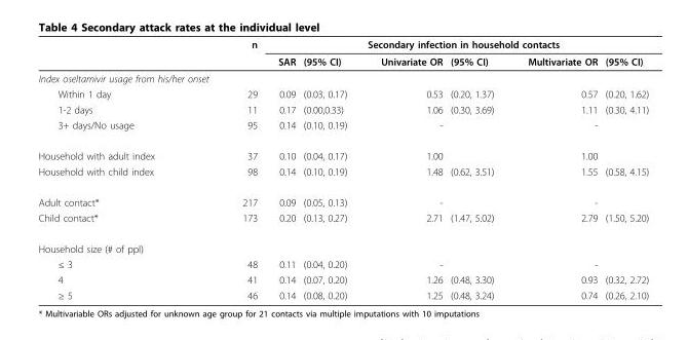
<table><thead><tr><td rowspan="2"></td><td rowspan="2">n</td><td colspan="6">Secondary infection in household contacts</td></tr><tr><td>SAR</td><td>(95% CI)</td><td>Univariate OR</td><td>(95% CI)</td><td>Multivariate OR</td><td>(95% CI)</td></tr></thead><tbody><tr><td colspan="8">Index oseltamivir usage from his/her onset</td></tr><tr><td>Within 1 day</td><td>29</td><td>0.09</td><td>(0.03, 0.17)</td><td>0.53</td><td>(0.20, 1.37)</td><td>0.57</td><td>(0.20, 1.62)</td></tr><tr><td>1-2 days</td><td>11</td><td>0.17</td><td>(0.00,0.33)</td><td>1.06</td><td>(0.30, 3.69)</td><td>1.11</td><td>(0.30, 4.11)</td></tr><tr><td>3+ days/No usage</td><td>95</td><td>0.14</td><td>(0.10, 0.19)</td><td>-</td><td></td><td>-</td><td></td></tr><tr><td>Household with adult index</td><td>37</td><td>0.10</td><td>(0.04, 0.17)</td><td>1.00</td><td></td><td>1.00</td><td></td></tr><tr><td>Household with child index</td><td>98</td><td>0.14</td><td>(0.10, 0.19)</td><td>1.48</td><td>(0.62, 3.51)</td><td>1.55</td><td>(0.58, 4.15)</td></tr><tr><td>Adult contact*</td><td>217</td><td>0.09</td><td>(0.05, 0.13)</td><td>-</td><td></td><td>-</td><td></td></tr><tr><td>Child contact*</td><td>173</td><td>0.20</td><td>(0.13, 0.27)</td><td>2.71</td><td>(1.47, 5.02)</td><td>2.79</td><td>(1.50, 5.20)</td></tr><tr><td colspan="8">Household size (# of ppl)</td></tr><tr><td>≤ 3</td><td>48</td><td>0.11</td><td>(0.04, 0.20)</td><td>-</td><td></td><td>-</td><td></td></tr><tr><td>4</td><td>41</td><td>0.14</td><td>(0.07, 0.20)</td><td>1.26</td><td>(0.48, 3.30)</td><td>0.93</td><td>(0.32, 2.72)</td></tr><tr><td>≥ 5</td><td>46</td><td>0.14</td><td>(0.08, 0.20)</td><td>1.25</td><td>(0.48, 3.24)</td><td>0.74</td><td>(0.26, 2.10)</td></tr></tbody></table>